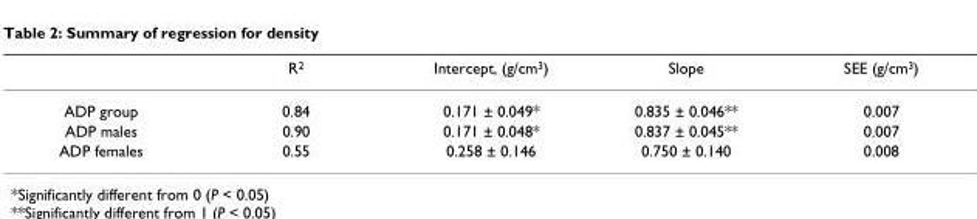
<table><thead><tr><td></td><td>R<sup>2</sup></td><td>Intercept, (g/cm<sup>3</sup>)</td><td>Slope</td><td>SEE (g/cm<sup>3</sup>)</td></tr></thead><tbody><tr><td>ADP group</td><td>0.84</td><td>0.171 ± 0.049*</td><td>0.835 ± 0.046**</td><td>0.007</td></tr><tr><td>ADP males</td><td>0.90</td><td>0.171 ± 0.048*</td><td>0.837 ± 0.045**</td><td>0.007</td></tr><tr><td>ADP females</td><td>0.55</td><td>0.258 ± 0.146</td><td>0.750 ± 0.140</td><td>0.008</td></tr></tbody></table>